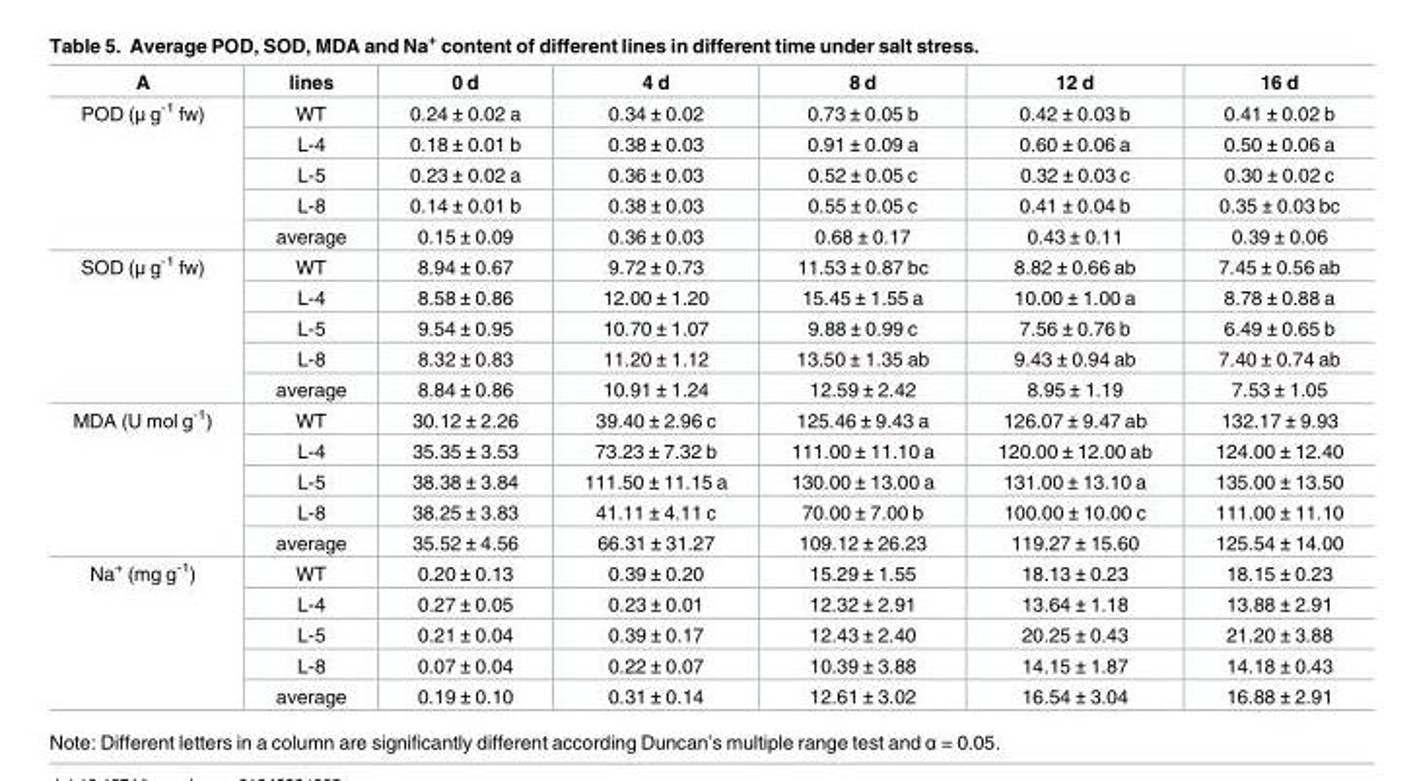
<table><thead><tr><td>A</td><td>lines</td><td>0 d</td><td>4 d</td><td>8 d</td><td>12 d</td><td>16 d</td></tr></thead><tbody><tr><td rowspan="5">POD (μ g<sup>-1</sup> fw)</td><td>WT</td><td>0.24 ± 0.02 a</td><td>0.34 ± 0.02</td><td>0.73 ± 0.05 b</td><td>0.42 ± 0.03 b</td><td>0.41 ± 0.02 b</td></tr><tr><td>L-4</td><td>0.18 ± 0.01 b</td><td>0.38 ± 0.03</td><td>0.91 ± 0.09 a</td><td>0.60 ± 0.06 a</td><td>0.50 ± 0.06 a</td></tr><tr><td>L-5</td><td>0.23 ± 0.02 a</td><td>0.36 ± 0.03</td><td>0.52 ± 0.05 c</td><td>0.32 ± 0.03 c</td><td>0.30 ± 0.02 c</td></tr><tr><td>L-8</td><td>0.14 ± 0.01 b</td><td>0.38 ± 0.03</td><td>0.55 ± 0.05 c</td><td>0.41 ± 0.04 b</td><td>0.35 ± 0.03 bc</td></tr><tr><td>average</td><td>0.15 ± 0.09</td><td>0.36 ± 0.03</td><td>0.68 ± 0.17</td><td>0.43 ± 0.11</td><td>0.39 ± 0.06</td></tr><tr><td rowspan="5">SOD (μ g<sup>-1</sup> fw)</td><td>WT</td><td>8.94 ± 0.67</td><td>9.72 ± 0.73</td><td>11.53 ± 0.87 bc</td><td>8.82 ± 0.66 ab</td><td>7.45 ± 0.56 ab</td></tr><tr><td>L-4</td><td>8.58 ± 0.86</td><td>12.00 ± 1.20</td><td>15.45 ± 1.55 a</td><td>10.00 ± 1.00 a</td><td>8.78 ± 0.88 a</td></tr><tr><td>L-5</td><td>9.54 ± 0.95</td><td>10.70 ± 1.07</td><td>9.88 ± 0.99 c</td><td>7.56 ± 0.76 b</td><td>6.49 ± 0.65 b</td></tr><tr><td>L-8</td><td>8.32 ± 0.83</td><td>11.20 ± 1.12</td><td>13.50 ± 1.35 ab</td><td>9.43 ± 0.94 ab</td><td>7.40 ± 0.74 ab</td></tr><tr><td>average</td><td>8.84 ± 0.86</td><td>10.91 ± 1.24</td><td>12.59 ± 2.42</td><td>8.95 ± 1.19</td><td>7.53 ± 1.05</td></tr><tr><td rowspan="5">MDA (U mol g<sup>-1</sup>)</td><td>WT</td><td>30.12 ± 2.26</td><td>39.40 ± 2.96 c</td><td>125.46 ± 9.43 a</td><td>126.07 ± 9.47 ab</td><td>132.17 ± 9.93</td></tr><tr><td>L-4</td><td>35.35 ± 3.53</td><td>73.23 ± 7.32 b</td><td>111.00 ± 11.10 a</td><td>120.00 ± 12.00 ab</td><td>124.00 ± 12.40</td></tr><tr><td>L-5</td><td>38.38 ± 3.84</td><td>111.50 ± 11.15 a</td><td>130.00 ± 13.00 a</td><td>131.00 ± 13.10 a</td><td>135.00 ± 13.50</td></tr><tr><td>L-8</td><td>38.25 ± 3.83</td><td>41.11 ± 4.11 c</td><td>70.00 ± 7.00 b</td><td>100.00 ± 10.00 c</td><td>111.00 ± 11.10</td></tr><tr><td>average</td><td>35.52 ± 4.56</td><td>66.31 ± 31.27</td><td>109.12 ± 26.23</td><td>119.27 ± 15.60</td><td>125.54 ± 14.00</td></tr><tr><td rowspan="5">Na<sup>+</sup> (mg g<sup>-1</sup>)</td><td>WT</td><td>0.20 ± 0.13</td><td>0.39 ± 0.20</td><td>15.29 ± 1.55</td><td>18.13 ± 0.23</td><td>18.15 ± 0.23</td></tr><tr><td>L-4</td><td>0.27 ± 0.05</td><td>0.23 ± 0.01</td><td>12.32 ± 2.91</td><td>13.64 ± 1.18</td><td>13.88 ± 2.91</td></tr><tr><td>L-5</td><td>0.21 ± 0.04</td><td>0.39 ± 0.17</td><td>12.43 ± 2.40</td><td>20.25 ± 0.43</td><td>21.20 ± 3.88</td></tr><tr><td>L-8</td><td>0.07 ± 0.04</td><td>0.22 ± 0.07</td><td>10.39 ± 3.88</td><td>14.15 ± 1.87</td><td>14.18 ± 0.43</td></tr><tr><td>average</td><td>0.19 ± 0.10</td><td>0.31 ± 0.14</td><td>12.61 ± 3.02</td><td>16.54 ± 3.04</td><td>16.88 ± 2.91</td></tr></tbody></table>